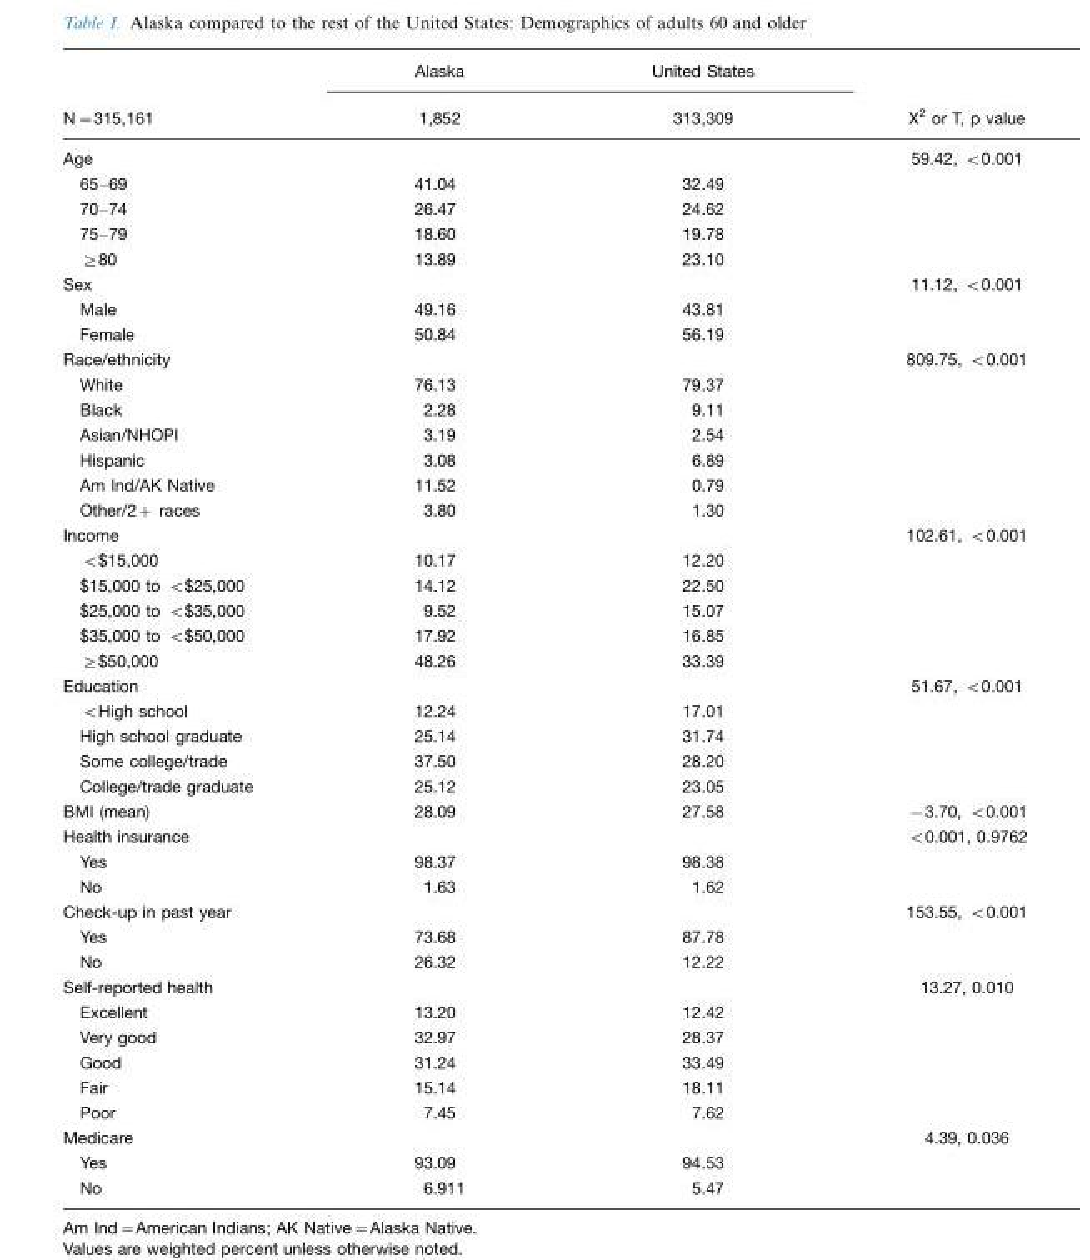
<table><thead><tr><td rowspan="2">N=315,161</td><td rowspan="2">Alaska 1,852</td><td rowspan="2">United States 313,309</td><td rowspan="2">X<sup>2</sup> or T, p value</td></tr><tr></tr></thead><tbody><tr><td>Age</td><td></td><td></td><td>59.42, &lt;0.001</td></tr><tr><td>65–69</td><td>41.04</td><td>32.49</td><td></td></tr><tr><td>70–74</td><td>26.47</td><td>24.62</td><td></td></tr><tr><td>75–79</td><td>18.60</td><td>19.78</td><td></td></tr><tr><td>≥80</td><td>13.89</td><td>23.10</td><td></td></tr><tr><td>Sex</td><td></td><td></td><td>11.12, &lt;0.001</td></tr><tr><td>Male</td><td>49.16</td><td>43.81</td><td></td></tr><tr><td>Female</td><td>50.84</td><td>56.19</td><td></td></tr><tr><td>Race/ethnicity</td><td></td><td></td><td>809.75, &lt;0.001</td></tr><tr><td>White</td><td>76.13</td><td>79.37</td><td></td></tr><tr><td>Black</td><td>2.28</td><td>9.11</td><td></td></tr><tr><td>Asian/NHOPI</td><td>3.19</td><td>2.54</td><td></td></tr><tr><td>Hispanic</td><td>3.08</td><td>6.89</td><td></td></tr><tr><td>Am Ind/AK Native</td><td>11.52</td><td>0.79</td><td></td></tr><tr><td>Other/2+ races</td><td>3.80</td><td>1.30</td><td></td></tr><tr><td>Income</td><td></td><td></td><td>102.61, &lt;0.001</td></tr><tr><td>&lt;$15,000</td><td>10.17</td><td>12.20</td><td></td></tr><tr><td>$15,000 to &lt;$25,000</td><td>14.12</td><td>22.50</td><td></td></tr><tr><td>$25,000 to &lt;$35,000</td><td>9.52</td><td>15.07</td><td></td></tr><tr><td>$35,000 to &lt;$50,000</td><td>17.92</td><td>16.85</td><td></td></tr><tr><td>≥$50,000</td><td>48.26</td><td>33.39</td><td></td></tr><tr><td>Education</td><td></td><td></td><td>51.67, &lt;0.001</td></tr><tr><td>&lt;High school</td><td>12.24</td><td>17.01</td><td></td></tr><tr><td>High school graduate</td><td>25.14</td><td>31.74</td><td></td></tr><tr><td>Some college/trade</td><td>37.50</td><td>28.20</td><td></td></tr><tr><td>College/trade graduate</td><td>25.12</td><td>23.05</td><td></td></tr><tr><td>BMI (mean)</td><td>28.09</td><td>27.58</td><td>−3.70, &lt;0.001</td></tr><tr><td>Health insurance</td><td></td><td></td><td>&lt;0.001, 0.9762</td></tr><tr><td>Yes</td><td>98.37</td><td>98.38</td><td></td></tr><tr><td>No</td><td>1.63</td><td>1.62</td><td></td></tr><tr><td>Check-up in past year</td><td></td><td></td><td>153.55, &lt;0.001</td></tr><tr><td>Yes</td><td>73.68</td><td>87.78</td><td></td></tr><tr><td>No</td><td>26.32</td><td>12.22</td><td></td></tr><tr><td>Self-reported health</td><td></td><td></td><td>13.27, 0.010</td></tr><tr><td>Excellent</td><td>13.20</td><td>12.42</td><td></td></tr><tr><td>Very good</td><td>32.97</td><td>28.37</td><td></td></tr><tr><td>Good</td><td>31.24</td><td>33.49</td><td></td></tr><tr><td>Fair</td><td>15.14</td><td>18.11</td><td></td></tr><tr><td>Poor</td><td>7.45</td><td>7.62</td><td></td></tr><tr><td>Medicare</td><td></td><td></td><td>4.39, 0.036</td></tr><tr><td>Yes</td><td>93.09</td><td>94.53</td><td></td></tr><tr><td>No</td><td>6.911</td><td>5.47</td><td></td></tr></tbody></table>